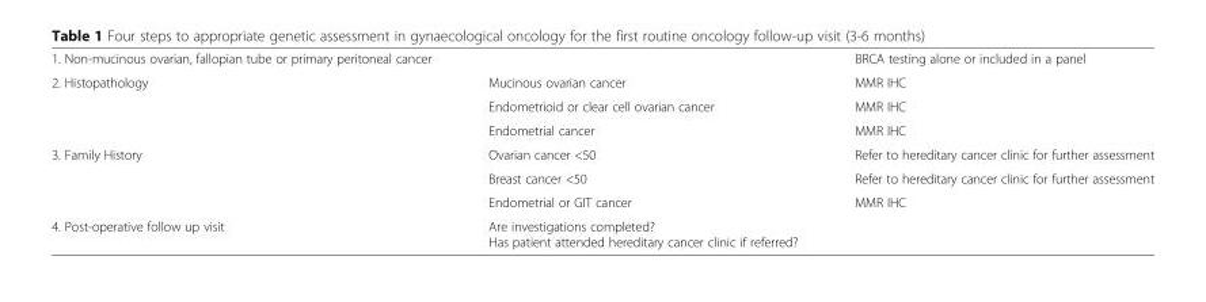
<table><tbody><tr><td>1. Non-mucinous ovarian, fallopian tube or primary peritoneal cancer</td><td></td><td>BRCA testing alone or included in a panel</td></tr><tr><td rowspan="3">2. Histopathology</td><td>Mucinous ovarian cancer</td><td>MMR IHC</td></tr><tr><td>Endometrioid or clear cell ovarian cancer</td><td>MMR IHC</td></tr><tr><td>Endometrial cancer</td><td>MMR IHC</td></tr><tr><td rowspan="3">3. Family History</td><td>Ovarian cancer &lt;50</td><td>Refer to hereditary cancer clinic for further assessment</td></tr><tr><td>Breast cancer &lt;50</td><td>Refer to hereditary cancer clinic for further assessment</td></tr><tr><td>Endometrial or GIT cancer</td><td>MMR IHC</td></tr><tr><td>4. Post-operative follow up visit</td><td>Are investigations completed? Has patient attended hereditary cancer clinic if referred?</td><td></td></tr></tbody></table>